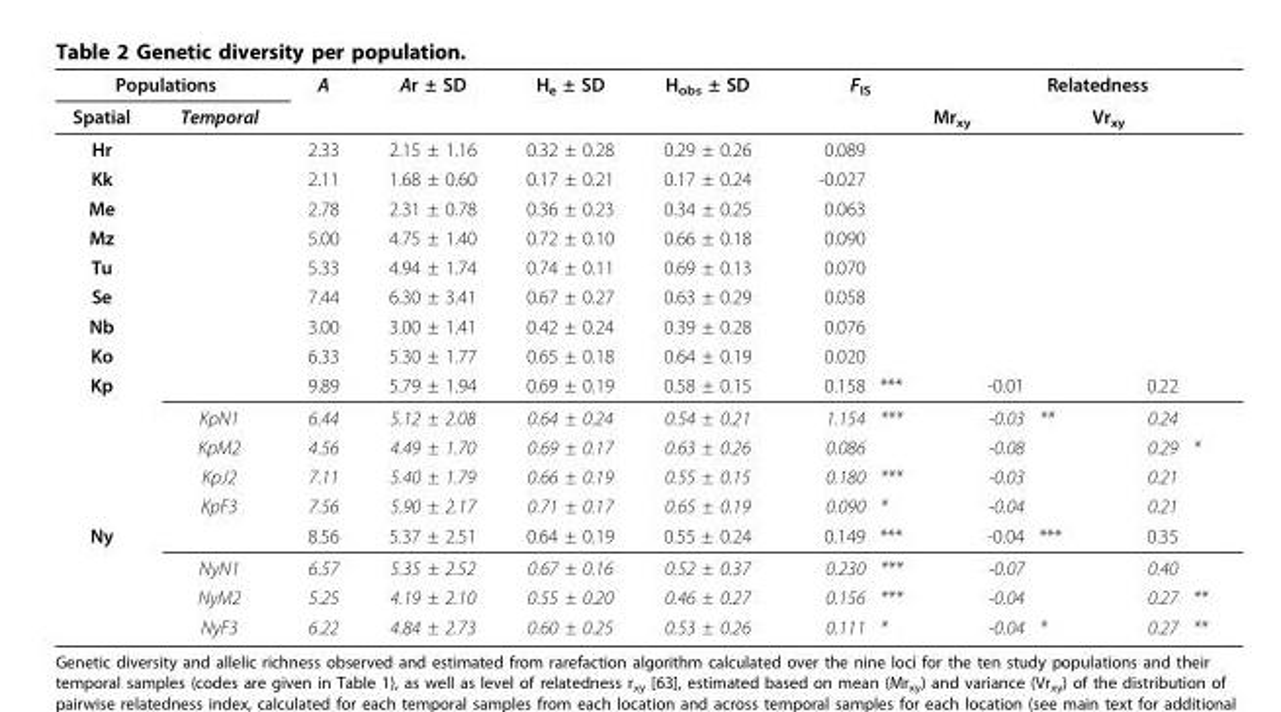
<table><thead><tr><td colspan="2">Populations</td><td rowspan="3">A 2.33</td><td rowspan="3">Ar ± SD 2.15 ± 1.16</td><td rowspan="3">H<sub>e</sub> ± SD 0.32 ± 0.28</td><td rowspan="3">H<sub>obs</sub> ± SD 0.29 ± 0.26</td><td colspan="2">F<sub>IS</sub></td><td colspan="4">Relatedness</td></tr><tr><td rowspan="2">Spatial Hr</td><td rowspan="2">Temporal</td><td rowspan="2">0.089</td><td rowspan="2"></td><td colspan="2">Mr<sub>xy</sub></td><td colspan="2">Vr<sub>xy</sub></td></tr><tr><td></td><td></td><td></td><td></td></tr></thead><tbody><tr><td>Kk</td><td></td><td>2.11</td><td>1.68 ± 0.60</td><td>0.17 ± 0.21</td><td>0.17 ± 0.24</td><td>-0.027</td><td></td><td></td><td></td><td></td><td></td></tr><tr><td>Me</td><td></td><td>2.78</td><td>2.31 ± 0.78</td><td>0.36 ± 0.23</td><td>0.34 ± 0.25</td><td>0.063</td><td></td><td></td><td></td><td></td><td></td></tr><tr><td>Mz</td><td></td><td>5.00</td><td>4.75 ± 1.40</td><td>0.72 ± 0.10</td><td>0.66 ± 0.18</td><td>0.090</td><td></td><td></td><td></td><td></td><td></td></tr><tr><td>Tu</td><td></td><td>5.33</td><td>4.94 ± 1.74</td><td>0.74 ± 0.11</td><td>0.69 ± 0.13</td><td>0.070</td><td></td><td></td><td></td><td></td><td></td></tr><tr><td>Se</td><td></td><td>7.44</td><td>6.30 ± 3.41</td><td>0.67 ± 0.27</td><td>0.63 ± 0.29</td><td>0.058</td><td></td><td></td><td></td><td></td><td></td></tr><tr><td>Nb</td><td></td><td>3.00</td><td>3.00 ± 1.41</td><td>0.42 ± 0.24</td><td>0.39 ± 0.28</td><td>0.076</td><td></td><td></td><td></td><td></td><td></td></tr><tr><td>Ko</td><td></td><td>6.33</td><td>5.30 ± 1.77</td><td>0.65 ± 0.18</td><td>0.64 ± 0.19</td><td>0.020</td><td></td><td></td><td></td><td></td><td></td></tr><tr><td rowspan="5">Kp</td><td></td><td>9.89</td><td>5.79 ± 1.94</td><td>0.69 ± 0.19</td><td>0.58 ± 0.15</td><td>0.158</td><td>***</td><td>-0.01</td><td></td><td>0.22</td><td></td></tr><tr><td>KpN1</td><td>6.44</td><td>5.12 ± 2.08</td><td>0.64 ± 0.24</td><td>0.54 ± 0.21</td><td>1.154</td><td>***</td><td>-0.03</td><td>**</td><td>0.24</td><td></td></tr><tr><td>KpM2</td><td>4.56</td><td>4.49 ± 1.70</td><td>0.69 ± 0.17</td><td>0.63 ± 0.26</td><td>0.086</td><td></td><td>-0.08</td><td></td><td>0.29</td><td>*</td></tr><tr><td>KpJ2</td><td>7.11</td><td>5.40 ± 1.79</td><td>0.66 ± 0.19</td><td>0.55 ± 0.15</td><td>0.180</td><td>***</td><td>-0.03</td><td></td><td>0.21</td><td></td></tr><tr><td>KpF3</td><td>7.56</td><td>5.90 ± 2.17</td><td>0.71 ± 0.17</td><td>0.65 ± 0.19</td><td>0.090</td><td>*</td><td>-0.04</td><td></td><td>0.21</td><td></td></tr><tr><td rowspan="4">Ny</td><td></td><td>8.56</td><td>5.37 ± 2.51</td><td>0.64 ± 0.19</td><td>0.55 ± 0.24</td><td>0.149</td><td>***</td><td>-0.04</td><td>***</td><td>0.35</td><td></td></tr><tr><td>NyN1</td><td>6.57</td><td>5.35 ± 2.52</td><td>0.67 ± 0.16</td><td>0.52 ± 0.37</td><td>0.230</td><td>***</td><td>-0.07</td><td></td><td>0.40</td><td></td></tr><tr><td>NyM2</td><td>5.25</td><td>4.19 ± 2.10</td><td>0.55 ± 0.20</td><td>0.46 ± 0.27</td><td>0.156</td><td>***</td><td>-0.04</td><td></td><td>0.27</td><td>**</td></tr><tr><td>NyF3</td><td>6.22</td><td>4.84 ± 2.73</td><td>0.60 ± 0.25</td><td>0.53 ± 0.26</td><td>0.111</td><td>*</td><td>-0.04</td><td>*</td><td>0.27</td><td>**</td></tr></tbody></table>